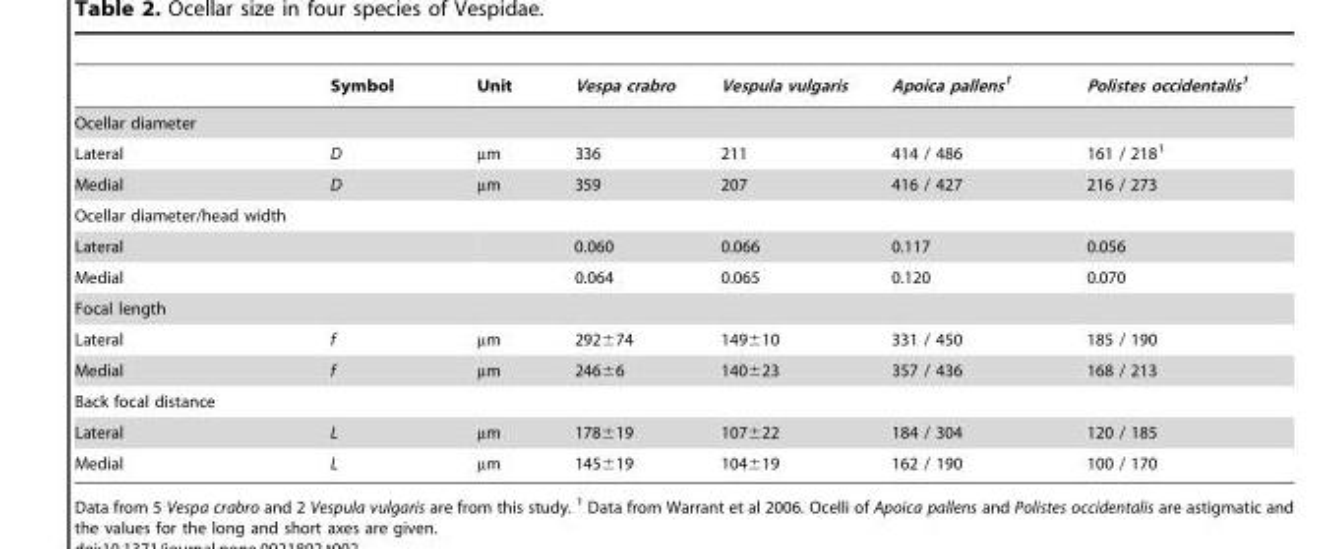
<table><thead><tr><td></td><td>Symbol</td><td>Unit</td><td>Vespa crabro</td><td>Vespula vulgaris</td><td>Apoica pallens<sup>1</sup></td><td>Polistes occidentalis<sup>1</sup></td></tr></thead><tbody><tr><td colspan="7">Ocellar diameter</td></tr><tr><td>Lateral</td><td>D</td><td>µm</td><td>336</td><td>211</td><td>414 / 486</td><td>161 / 218<sup>1</sup></td></tr><tr><td>Medial</td><td>D</td><td>µm</td><td>359</td><td>207</td><td>416 / 427</td><td>216 / 273</td></tr><tr><td colspan="7">Ocellar diameter/head width</td></tr><tr><td>Lateral</td><td></td><td></td><td>0.060</td><td>0.066</td><td>0.117</td><td>0.056</td></tr><tr><td>Medial</td><td></td><td></td><td>0.064</td><td>0.065</td><td>0.120</td><td>0.070</td></tr><tr><td colspan="7">Focal length</td></tr><tr><td>Lateral</td><td>f</td><td>µm</td><td>292±74</td><td>149±10</td><td>331 / 450</td><td>185 / 190</td></tr><tr><td>Medial</td><td>f</td><td>µm</td><td>246±6</td><td>140±23</td><td>357 / 436</td><td>168 / 213</td></tr><tr><td colspan="7">Back focal distance</td></tr><tr><td>Lateral</td><td>L</td><td>µm</td><td>178±19</td><td>107±22</td><td>184 / 304</td><td>120 / 185</td></tr><tr><td>Medial</td><td>L</td><td>µm</td><td>145±19</td><td>104±19</td><td>162 / 190</td><td>100 / 170</td></tr></tbody></table>